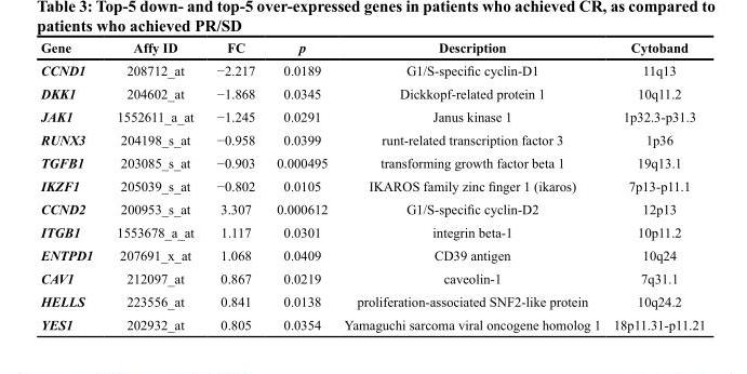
<table><thead><tr><td>Gene</td><td>Affy ID</td><td>FC</td><td>p</td><td>Description</td><td>Cytoband</td></tr></thead><tbody><tr><td>CCND1</td><td>208712_at</td><td>−2.217</td><td>0.0189</td><td>G1/S-specific cyclin-D1</td><td>11q13</td></tr><tr><td>DKK1</td><td>204602_at</td><td>−1.868</td><td>0.0345</td><td>Dickkopf-related protein 1</td><td>10q11.2</td></tr><tr><td>JAK1</td><td>1552611_a_at</td><td>−1.245</td><td>0.0291</td><td>Janus kinase 1</td><td>1p32.3-p31.3</td></tr><tr><td>RUNX3</td><td>204198_s_at</td><td>−0.958</td><td>0.0399</td><td>runt-related transcription factor 3</td><td>1p36</td></tr><tr><td>TGFB1</td><td>203085_s_at</td><td>−0.903</td><td>0.000495</td><td>transforming growth factor beta 1</td><td>19q13.1</td></tr><tr><td>IKZF1</td><td>205039_s_at</td><td>−0.802</td><td>0.0105</td><td>IKAROS family zinc finger 1 (ikaros)</td><td>7p13-p11.1</td></tr><tr><td>CCND2</td><td>200953_s_at</td><td>3.307</td><td>0.000612</td><td>G1/S-specific cyclin-D2</td><td>12p13</td></tr><tr><td>ITGB1</td><td>1553678_a_at</td><td>1.117</td><td>0.0301</td><td>integrin beta-1</td><td>10p11.2</td></tr><tr><td>ENTPD1</td><td>207691_x_at</td><td>1.068</td><td>0.0409</td><td>CD39 antigen</td><td>10q24</td></tr><tr><td>CAV1</td><td>212097_at</td><td>0.867</td><td>0.0219</td><td>caveolin-1</td><td>7q31.1</td></tr><tr><td>HELLS</td><td>223556_at</td><td>0.841</td><td>0.0138</td><td>proliferation-associated SNF2-like protein</td><td>10q24.2</td></tr><tr><td>YES1</td><td>202932_at</td><td>0.805</td><td>0.0354</td><td>Yamaguchi sarcoma viral oncogene homolog 1</td><td>18p11.31-p11.21</td></tr></tbody></table>